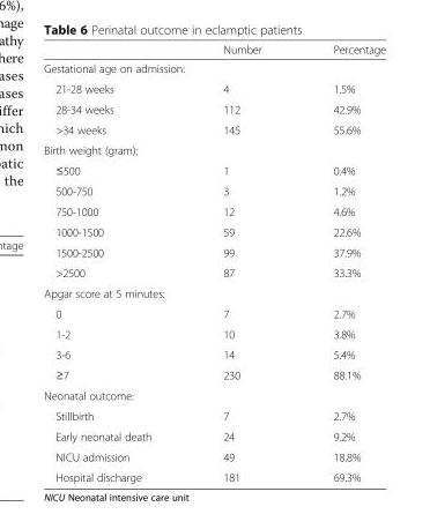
<table><thead><tr><td></td><td>Number</td><td>Percentage</td></tr></thead><tbody><tr><td colspan="3">Gestational age on admission:</td></tr><tr><td>21-28 weeks</td><td>4</td><td>1.5%</td></tr><tr><td>28-34 weeks</td><td>112</td><td>42.9%</td></tr><tr><td>&gt;34 weeks</td><td>145</td><td>55.6%</td></tr><tr><td colspan="3">Birth weight (gram):</td></tr><tr><td>≤500</td><td>1</td><td>0.4%</td></tr><tr><td>500-750</td><td>3</td><td>1.2%</td></tr><tr><td>750-1000</td><td>12</td><td>4.6%</td></tr><tr><td>1000-1500</td><td>59</td><td>22.6%</td></tr><tr><td>1500-2500</td><td>99</td><td>37.9%</td></tr><tr><td>&gt;2500</td><td>87</td><td>33.3%</td></tr><tr><td colspan="3">Apgar score at 5 minutes:</td></tr><tr><td>0</td><td>7</td><td>2.7%</td></tr><tr><td>1-2</td><td>10</td><td>3.8%</td></tr><tr><td>3-6</td><td>14</td><td>5.4%</td></tr><tr><td>≥7</td><td>230</td><td>88.1%</td></tr><tr><td colspan="3">Neonatal outcome:</td></tr><tr><td>Stillbirth</td><td>7</td><td>2.7%</td></tr><tr><td>Early neonatal death</td><td>24</td><td>9.2%</td></tr><tr><td>NICU admission</td><td>49</td><td>18.8%</td></tr><tr><td>Hospital discharge</td><td>181</td><td>69.3%</td></tr></tbody></table>